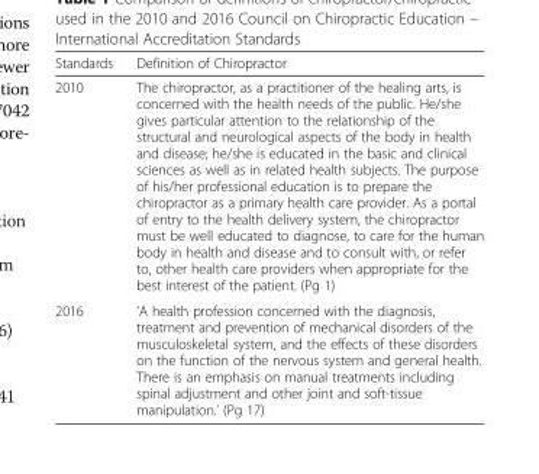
<table><thead><tr><td>Standards</td><td>Definition of Chiropractor</td></tr></thead><tbody><tr><td>2010</td><td>The chiropractor, as a practitioner of the healing arts, is concerned with the health needs of the public. He/she gives particular attention to the relationship of the structural and neurological aspects of the body in health and disease; he/she is educated in the basic and clinical sciences as well as in related health subjects. The purpose of his/her professional education is to prepare the chiropractor as a primary health care provider. As a portal of entry to the health delivery system, the chiropractor must be well educated to diagnose, to care for the human body in health and disease and to consult with, or refer to, other health care providers when appropriate for the best interest of the patient. (Pg 1)</td></tr><tr><td>2016</td><td>‘A health profession concerned with the diagnosis, treatment and prevention of mechanical disorders of the musculoskeletal system, and the effects of these disorders on the function of the nervous system and general health. There is an emphasis on manual treatments including spinal adjustment and other joint and soft-tissue manipulation.’ (Pg 17)</td></tr></tbody></table>